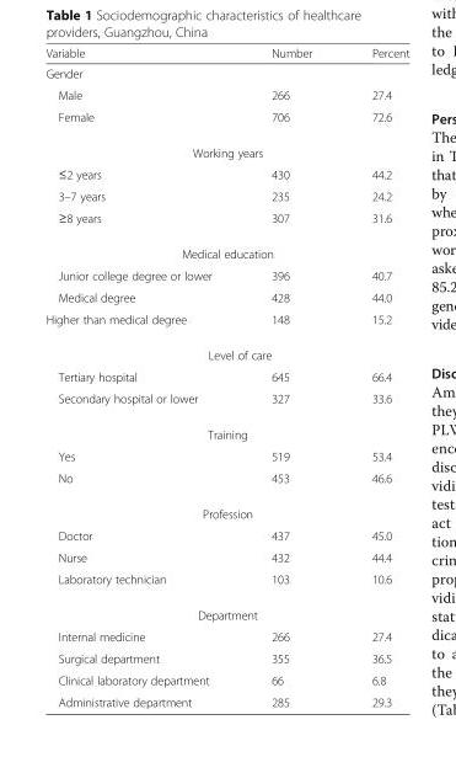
<table><thead><tr><td>Variable</td><td>Number</td><td>Percent</td></tr></thead><tbody><tr><td colspan="3">Gender</td></tr><tr><td>Male</td><td>266</td><td>27.4</td></tr><tr><td>Female</td><td>706</td><td>72.6</td></tr><tr><td colspan="3">Working years</td></tr><tr><td>≤2 years</td><td>430</td><td>44.2</td></tr><tr><td>3–7 years</td><td>235</td><td>24.2</td></tr><tr><td>≥8 years</td><td>307</td><td>31.6</td></tr><tr><td colspan="3">Medical education</td></tr><tr><td>Junior college degree or lower</td><td>396</td><td>40.7</td></tr><tr><td>Medical degree</td><td>428</td><td>44.0</td></tr><tr><td>Higher than medical degree</td><td>148</td><td>15.2</td></tr><tr><td colspan="3">Level of care</td></tr><tr><td>Tertiary hospital</td><td>645</td><td>66.4</td></tr><tr><td>Secondary hospital or lower</td><td>327</td><td>33.6</td></tr><tr><td colspan="3">Training</td></tr><tr><td>Yes</td><td>519</td><td>53.4</td></tr><tr><td>No</td><td>453</td><td>46.6</td></tr><tr><td colspan="3">Profession</td></tr><tr><td>Doctor</td><td>437</td><td>45.0</td></tr><tr><td>Nurse</td><td>432</td><td>44.4</td></tr><tr><td>Laboratory technician</td><td>103</td><td>10.6</td></tr><tr><td colspan="3">Department</td></tr><tr><td>Internal medicine</td><td>266</td><td>27.4</td></tr><tr><td>Surgical department</td><td>355</td><td>36.5</td></tr><tr><td>Clinical laboratory department</td><td>66</td><td>6.8</td></tr><tr><td>Administrative department</td><td>285</td><td>29.3</td></tr></tbody></table>